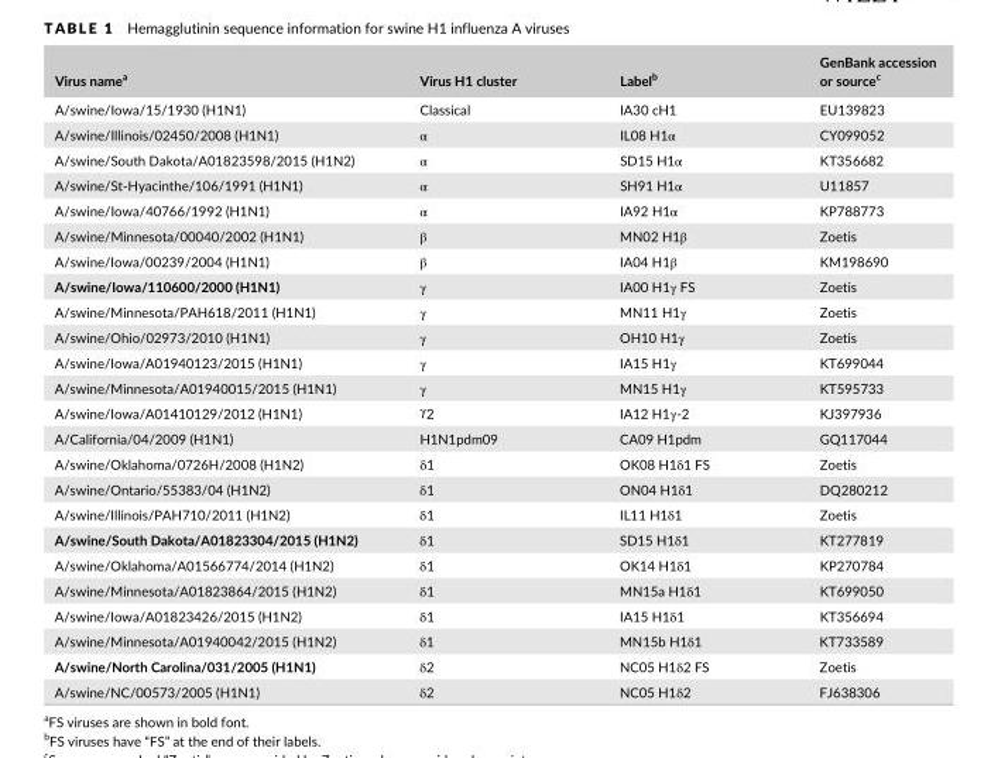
<table><thead><tr><td>Virus name<sup>a</sup></td><td>Virus H1 cluster</td><td>Label<sup>b</sup></td><td>GenBank accession or source<sup>c</sup></td></tr></thead><tbody><tr><td>A/swine/Iowa/15/1930 (H1N1)</td><td>Classical</td><td>IA30 cH1</td><td>EU139823</td></tr><tr><td>A/swine/Illinois/02450/2008 (H1N1)</td><td>α</td><td>IL08 H1α</td><td>CY099052</td></tr><tr><td>A/swine/South Dakota/A01823598/2015 (H1N2)</td><td>α</td><td>SD15 H1α</td><td>KT356682</td></tr><tr><td>A/swine/St- Hyacinthe/106/1991 (H1N1)</td><td>α</td><td>SH91 H1α</td><td>U11857</td></tr><tr><td>A/swine/Iowa/40766/1992 (H1N1)</td><td>α</td><td>IA92 H1α</td><td>KP788773</td></tr><tr><td>A/swine/Minnesota/00040/2002 (H1N1)</td><td>β</td><td>MN02 H1β</td><td>Zoetis</td></tr><tr><td>A/swine/Iowa/00239/2004 (H1N1)</td><td>β</td><td>IA04 H1β</td><td>KM198690</td></tr><tr><td>A/swine/Iowa/110600/2000 (H1N1)</td><td>γ</td><td>IA00 H1γ FS</td><td>Zoetis</td></tr><tr><td>A/swine/Minnesota/PAH618/2011 (H1N1)</td><td>γ</td><td>MN11 H1γ</td><td>Zoetis</td></tr><tr><td>A/swine/Ohio/02973/2010 (H1N1)</td><td>γ</td><td>OH10 H1γ</td><td>Zoetis</td></tr><tr><td>A/swine/Iowa/A01940123/2015 (H1N1)</td><td>γ</td><td>IA15 H1γ</td><td>KT699044</td></tr><tr><td>A/swine/Minnesota/A01940015/2015 (H1N1)</td><td>γ</td><td>MN15 H1γ</td><td>KT595733</td></tr><tr><td>A/swine/Iowa/A01410129/2012 (H1N1)</td><td>γ2</td><td>IA12 H1γ- 2</td><td>KJ397936</td></tr><tr><td>A/California/04/2009 (H1N1)</td><td>H1N1pdm09</td><td>CA09 H1pdm</td><td>GQ117044</td></tr><tr><td>A/swine/Oklahoma/0726H/2008 (H1N2)</td><td>δ1</td><td>OK08 H1δ1 FS</td><td>Zoetis</td></tr><tr><td>A/swine/Ontario/55383/04 (H1N2)</td><td>δ1</td><td>ON04 H1δ1</td><td>DQ280212</td></tr><tr><td>A/swine/Illinois/PAH710/2011 (H1N2)</td><td>δ1</td><td>IL11 H1δ1</td><td>Zoetis</td></tr><tr><td>A/swine/South Dakota/A01823304/2015 (H1N2)</td><td>δ1</td><td>SD15 H1δ1</td><td>KT277819</td></tr><tr><td>A/swine/Oklahoma/A01566774/2014 (H1N2)</td><td>δ1</td><td>OK14 H1δ1</td><td>KP270784</td></tr><tr><td>A/swine/Minnesota/A01823864/2015 (H1N2)</td><td>δ1</td><td>MN15a H1δ1</td><td>KT699050</td></tr><tr><td>A/swine/Iowa/A01823426/2015 (H1N2)</td><td>δ1</td><td>IA15 H1δ1</td><td>KT356694</td></tr><tr><td>A/swine/Minnesota/A01940042/2015 (H1N2)</td><td>δ1</td><td>MN15b H1δ1</td><td>KT733589</td></tr><tr><td>A/swine/North Carolina/031/2005 (H1N1)</td><td>δ2</td><td>NC05 H1δ2 FS</td><td>Zoetis</td></tr><tr><td>A/swine/NC/00573/2005 (H1N1)</td><td>δ2</td><td>NC05 H1δ2</td><td>FJ638306</td></tr></tbody></table>